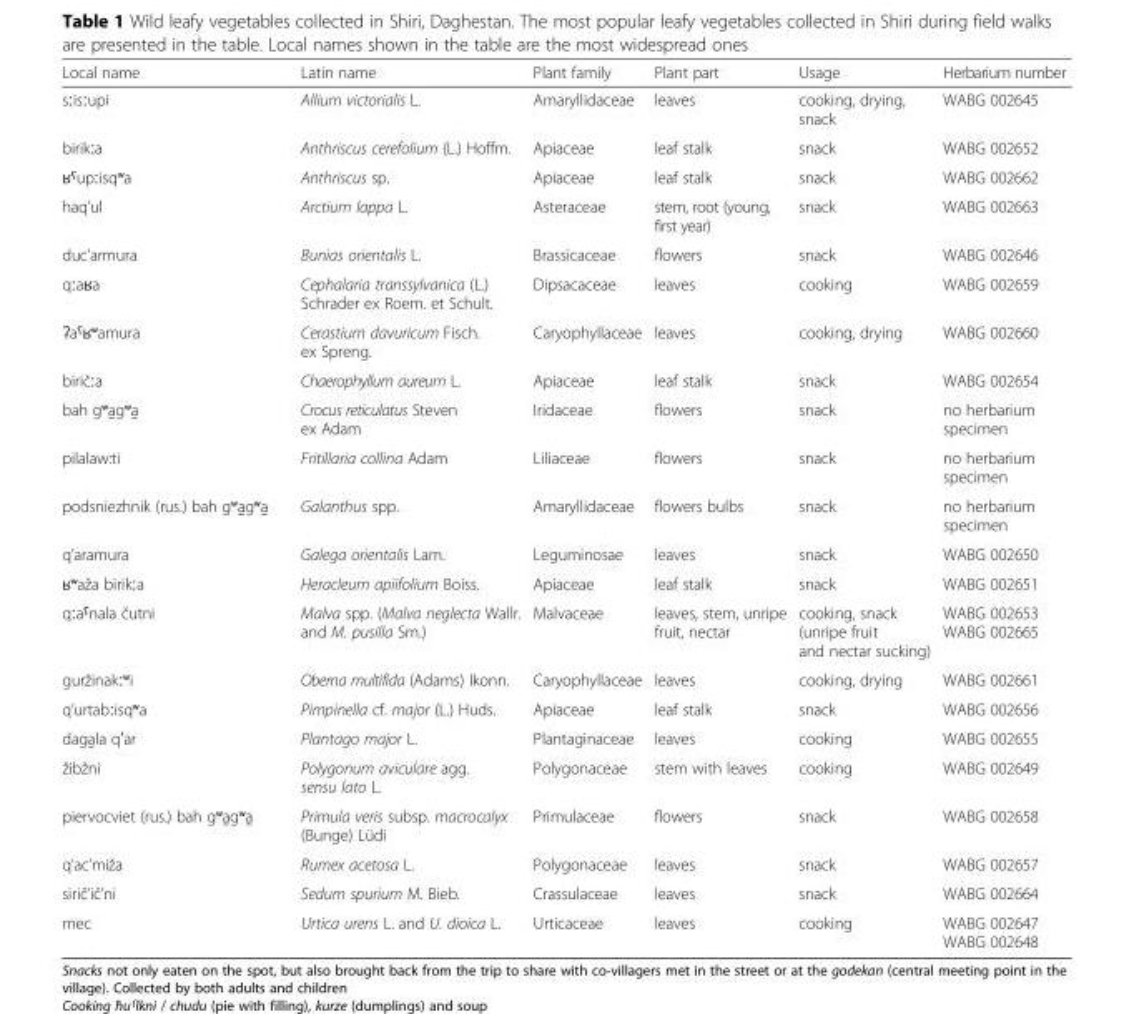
<table><thead><tr><td>Local name</td><td>Latin name</td><td>Plant family</td><td>Plant part</td><td>Usage</td><td>Herbarium number</td></tr></thead><tbody><tr><td>sːisːupi</td><td>Allium victorialis L.</td><td>Amaryllidaceae</td><td>leaves</td><td>cooking, drying, snack</td><td>WABG 002645</td></tr><tr><td>birikːa</td><td>Anthriscus cerefolium (L.) Hoffm.</td><td>Apiaceae</td><td>leaf stalk</td><td>snack</td><td>WABG 002652</td></tr><tr><td>ʁˤupːisqʷa</td><td>Anthriscus sp.</td><td>Apiaceae</td><td>leaf stalk</td><td>snack</td><td>WABG 002662</td></tr><tr><td>haq’ul</td><td>Arctium lappa L.</td><td>Asteraceae</td><td>stem, root (young, first year)</td><td>snack</td><td>WABG 002663</td></tr><tr><td>duc’armura</td><td>Bunias orientalis L.</td><td>Brassicaceae</td><td>flowers</td><td>snack</td><td>WABG 002646</td></tr><tr><td>qːaʁa</td><td>Cephalaria transsylvanica (L.) Schrader ex Roem. et Schult.</td><td>Dipsacaceae</td><td>leaves</td><td>cooking</td><td>WABG 002659</td></tr><tr><td>ʡaˤʁʷamura</td><td>Cerastium davuricum Fisch. ex Spreng.</td><td>Caryophyllaceae</td><td>leaves</td><td>cooking, drying</td><td>WABG 002660</td></tr><tr><td>biričːa</td><td>Chaerophyllum aureum L.</td><td>Apiaceae</td><td>leaf stalk</td><td>snack</td><td>WABG 002654</td></tr><tr><td>bah gʷa̰gʷa̰</td><td>Crocus reticulatus Steven ex Adam</td><td>Iridaceae</td><td>flowers</td><td>snack</td><td>no herbarium specimen</td></tr><tr><td>pilalaw:ti</td><td>Fritillaria collina Adam</td><td>Liliaceae</td><td>flowers</td><td>snack</td><td>no herbarium specimen</td></tr><tr><td>podsniezhnik (rus.) bah gʷa̰gʷa̰</td><td>Galanthus spp.</td><td>Amaryllidaceae</td><td>flowers bulbs</td><td>snack</td><td>no herbarium specimen</td></tr><tr><td>q’aramura</td><td>Galega orientalis Lam.</td><td>Leguminosae</td><td>leaves</td><td>snack</td><td>WABG 002650</td></tr><tr><td>ʁʷaža birikːa</td><td>Heracleum apiifolium Boiss.</td><td>Apiaceae</td><td>leaf stalk</td><td>snack</td><td>WABG 002651</td></tr><tr><td>qːaˤnala čutni</td><td>Malva spp. (Malva neglecta Wallr. and M. pusilla Sm.)</td><td>Malvaceae</td><td>leaves, stem, unripe fruit, nectar</td><td>cooking, snack (unripe fruit and nectar sucking)</td><td>WABG 002653 WABG 002665</td></tr><tr><td>guržinakːʷi</td><td>Oberna multifida (Adams) Ikonn.</td><td>Caryophyllaceae</td><td>leaves</td><td>cooking, drying</td><td>WABG 002661</td></tr><tr><td>q’urtabːisqʷa</td><td>Pimpinella cf. major (L.) Huds.</td><td>Apiaceae</td><td>leaf stalk</td><td>snack</td><td>WABG 002656</td></tr><tr><td>daga̰la qʼar</td><td>Plantago major L.</td><td>Plantaginaceae</td><td>leaves</td><td>cooking</td><td>WABG 002655</td></tr><tr><td>žibžni</td><td>Polygonum aviculare agg. sensu lato L.</td><td>Polygonaceae</td><td>stem with leaves</td><td>cooking</td><td>WABG 002649</td></tr><tr><td>piervocviet (rus.) bah gʷa̰gʷa̰</td><td>Primula veris subsp. macrocalyx (Bunge) Lüdi</td><td>Primulaceae</td><td>flowers</td><td>snack</td><td>WABG 002658</td></tr><tr><td>q’ac’miža</td><td>Rumex acetosa L.</td><td>Polygonaceae</td><td>leaves</td><td>snack</td><td>WABG 002657</td></tr><tr><td>sirič’ič’ni</td><td>Sedum spurium M. Bieb.</td><td>Crassulaceae</td><td>leaves</td><td>snack</td><td>WABG 002664</td></tr><tr><td>mec</td><td>Urtica urens L. and U. dioica L.</td><td>Urticaceae</td><td>leaves</td><td>cooking</td><td>WABG 002647 WABG 002648</td></tr></tbody></table>